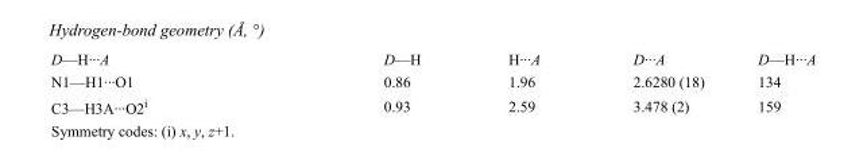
<table><tbody><tr><td>D—H···A</td><td>D—H</td><td>H···A</td><td>D···A</td><td>D—H···A</td></tr><tr><td>N1—H1···O1</td><td>0.86</td><td>1.96</td><td>2.6280 (18)</td><td>134</td></tr><tr><td>C3—H3A···O2<sup>i</sup></td><td>0.93</td><td>2.59</td><td>3.478 (2)</td><td>159</td></tr></tbody></table>